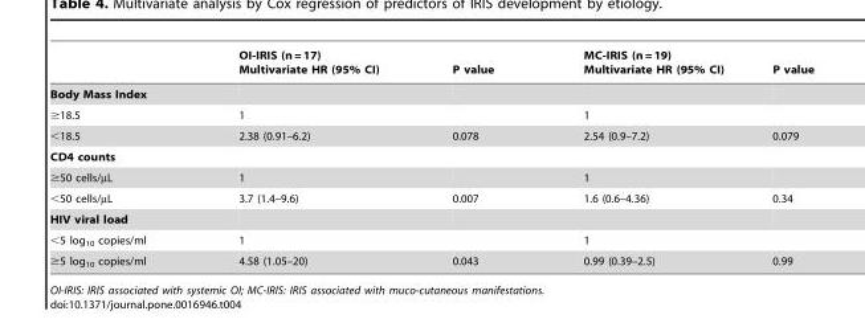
<table><thead><tr><td></td><td>OI-IRIS (n = 17) Multivariate HR (95% CI)</td><td>P value</td><td>MC-IRIS (n = 19) Multivariate HR (95% CI)</td><td>P value</td></tr></thead><tbody><tr><td colspan="5">Body Mass Index</td></tr><tr><td>≥18.5</td><td>1</td><td></td><td>1</td><td></td></tr><tr><td>&lt;18.5</td><td>2.38 (0.91–6.2)</td><td>0.078</td><td>2.54 (0.9–7.2)</td><td>0.079</td></tr><tr><td colspan="5">CD4 counts</td></tr><tr><td>≥50 cells/µL</td><td>1</td><td></td><td>1</td><td></td></tr><tr><td>&lt;50 cells/µL</td><td>3.7 (1.4–9.6)</td><td>0.007</td><td>1.6 (0.6–4.36)</td><td>0.34</td></tr><tr><td colspan="5">HIV viral load</td></tr><tr><td>&lt;5 log<sub>10</sub> copies/ml</td><td>1</td><td></td><td>1</td><td></td></tr><tr><td>≥5 log<sub>10</sub> copies/ml</td><td>4.58 (1.05–20)</td><td>0.043</td><td>0.99 (0.39–2.5)</td><td>0.99</td></tr></tbody></table>